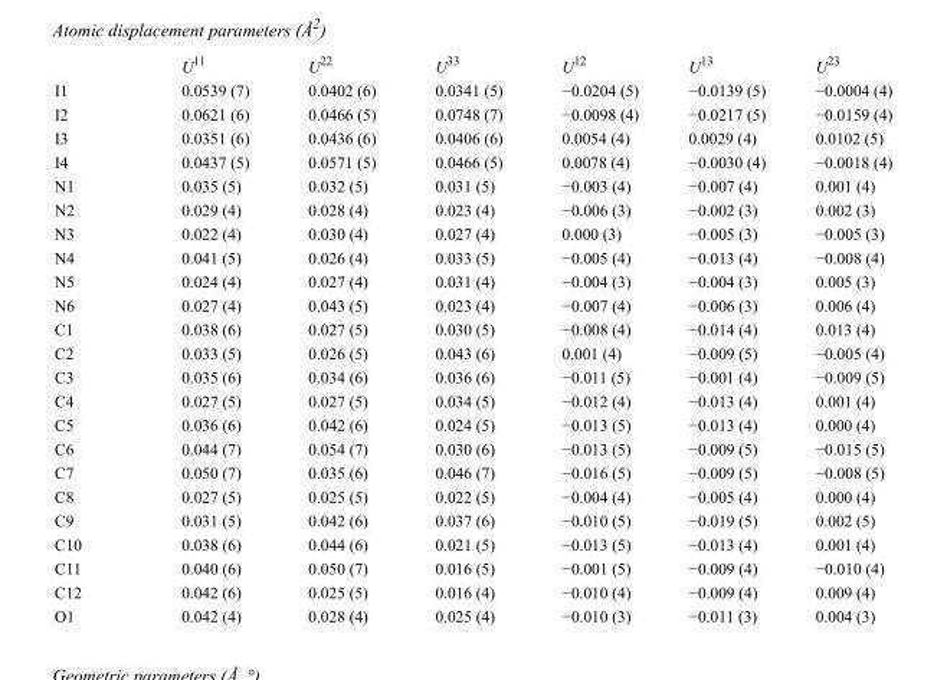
<table><thead><tr><td></td><td>U<sup>11</sup></td><td>U<sup>22</sup></td><td>U<sup>33</sup></td><td>U<sup>12</sup></td><td>U<sup>13</sup></td><td>U<sup>23</sup></td></tr></thead><tbody><tr><td>I1</td><td>0.0539 (7)</td><td>0.0402 (6)</td><td>0.0341 (5)</td><td>−0.0204 (5)</td><td>−0.0139 (5)</td><td>−0.0004 (4)</td></tr><tr><td>I2</td><td>0.0621 (6)</td><td>0.0466 (5)</td><td>0.0748 (7)</td><td>−0.0098 (4)</td><td>−0.0217 (5)</td><td>−0.0159 (4)</td></tr><tr><td>I3</td><td>0.0351 (6)</td><td>0.0436 (6)</td><td>0.0406 (6)</td><td>0.0054 (4)</td><td>0.0029 (4)</td><td>0.0102 (5)</td></tr><tr><td>I4</td><td>0.0437 (5)</td><td>0.0571 (5)</td><td>0.0466 (5)</td><td>0.0078 (4)</td><td>−0.0030 (4)</td><td>−0.0018 (4)</td></tr><tr><td>N1</td><td>0.035 (5)</td><td>0.032 (5)</td><td>0.031 (5)</td><td>−0.003 (4)</td><td>−0.007 (4)</td><td>0.001 (4)</td></tr><tr><td>N2</td><td>0.029 (4)</td><td>0.028 (4)</td><td>0.023 (4)</td><td>−0.006 (3)</td><td>−0.002 (3)</td><td>0.002 (3)</td></tr><tr><td>N3</td><td>0.022 (4)</td><td>0.030 (4)</td><td>0.027 (4)</td><td>0.000 (3)</td><td>−0.005 (3)</td><td>−0.005 (3)</td></tr><tr><td>N4</td><td>0.041 (5)</td><td>0.026 (4)</td><td>0.033 (5)</td><td>−0.005 (4)</td><td>−0.013 (4)</td><td>−0.008 (4)</td></tr><tr><td>N5</td><td>0.024 (4)</td><td>0.027 (4)</td><td>0.031 (4)</td><td>−0.004 (3)</td><td>−0.004 (3)</td><td>0.005 (3)</td></tr><tr><td>N6</td><td>0.027 (4)</td><td>0.043 (5)</td><td>0.023 (4)</td><td>−0.007 (4)</td><td>−0.006 (3)</td><td>0.006 (4)</td></tr><tr><td>C1</td><td>0.038 (6)</td><td>0.027 (5)</td><td>0.030 (5)</td><td>−0.008 (4)</td><td>−0.014 (4)</td><td>0.013 (4)</td></tr><tr><td>C2</td><td>0.033 (5)</td><td>0.026 (5)</td><td>0.043 (6)</td><td>0.001 (4)</td><td>−0.009 (5)</td><td>−0.005 (4)</td></tr><tr><td>C3</td><td>0.035 (6)</td><td>0.034 (6)</td><td>0.036 (6)</td><td>−0.011 (5)</td><td>−0.001 (4)</td><td>−0.009 (5)</td></tr><tr><td>C4</td><td>0.027 (5)</td><td>0.027 (5)</td><td>0.034 (5)</td><td>−0.012 (4)</td><td>−0.013 (4)</td><td>0.001 (4)</td></tr><tr><td>C5</td><td>0.036 (6)</td><td>0.042 (6)</td><td>0.024 (5)</td><td>−0.013 (5)</td><td>−0.013 (4)</td><td>0.000 (4)</td></tr><tr><td>C6</td><td>0.044 (7)</td><td>0.054 (7)</td><td>0.030 (6)</td><td>−0.013 (5)</td><td>−0.009 (5)</td><td>−0.015 (5)</td></tr><tr><td>C7</td><td>0.050 (7)</td><td>0.035 (6)</td><td>0.046 (7)</td><td>−0.016 (5)</td><td>−0.009 (5)</td><td>−0.008 (5)</td></tr><tr><td>C8</td><td>0.027 (5)</td><td>0.025 (5)</td><td>0.022 (5)</td><td>−0.004 (4)</td><td>−0.005 (4)</td><td>0.000 (4)</td></tr><tr><td>C9</td><td>0.031 (5)</td><td>0.042 (6)</td><td>0.037 (6)</td><td>−0.010 (5)</td><td>−0.019 (5)</td><td>0.002 (5)</td></tr><tr><td>C10</td><td>0.038 (6)</td><td>0.044 (6)</td><td>0.021 (5)</td><td>−0.013 (5)</td><td>−0.013 (4)</td><td>0.001 (4)</td></tr><tr><td>C11</td><td>0.040 (6)</td><td>0.050 (7)</td><td>0.016 (5)</td><td>−0.001 (5)</td><td>−0.009 (4)</td><td>−0.010 (4)</td></tr><tr><td>C12</td><td>0.042 (6)</td><td>0.025 (5)</td><td>0.016 (4)</td><td>−0.010 (4)</td><td>−0.009 (4)</td><td>0.009 (4)</td></tr><tr><td>O1</td><td>0.042 (4)</td><td>0.028 (4)</td><td>0.025 (4)</td><td>−0.010 (3)</td><td>−0.011 (3)</td><td>0.004 (3)</td></tr></tbody></table>